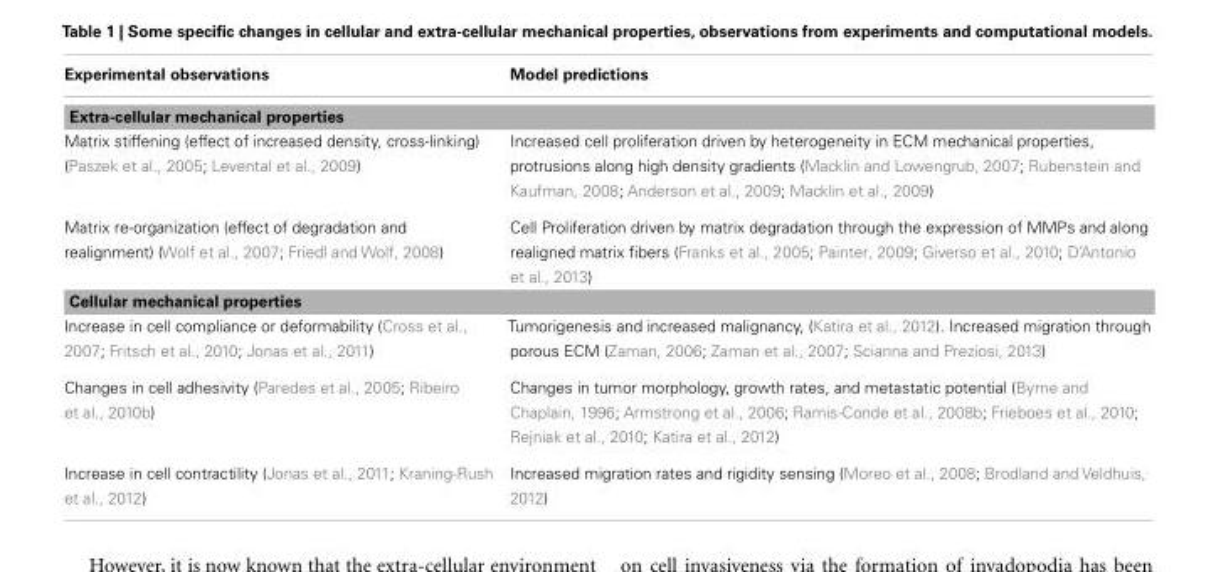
<table><thead><tr><td>Experimental observations</td><td>Model predictions</td></tr></thead><tbody><tr><td colspan="2">Extra-cellular mechanical properties</td></tr><tr><td>Matrix stiffening (effect of increased density, cross-linking) (Paszek et al., 2005; Levental et al., 2009)</td><td>Increased cell proliferation driven by heterogeneity in ECM mechanical properties, protrusions along high density gradients (Macklin and Lowengrub, 2007; Rubenstein and Kaufman, 2008; Anderson et al., 2009; Macklin et al., 2009)</td></tr><tr><td>Matrix re-organization (effect of degradation and realignment) (Wolf et al., 2007; Friedl and Wolf, 2008)</td><td>Cell Proliferation driven by matrix degradation through the expression of MMPs and along realigned matrix fibers (Franks et al., 2005; Painter, 2009; Giverso et al., 2010; D’Antonio et al., 2013)</td></tr><tr><td colspan="2">Cellular mechanical properties</td></tr><tr><td>Increase in cell compliance or deformability (Cross et al., 2007; Fritsch et al., 2010; Jonas et al., 2011)</td><td>Tumorigenesis and increased malignancy, (Katira et al., 2012). Increased migration through porous ECM (Zaman, 2006; Zaman et al., 2007; Scianna and Preziosi, 2013)</td></tr><tr><td>Changes in cell adhesivity (Paredes et al., 2005; Ribeiro et al., 2010b)</td><td>Changes in tumor morphology, growth rates, and metastatic potential (Byrne and Chaplain, 1996; Armstrong et al., 2006; Ramis-Conde et al., 2008b; Frieboes et al., 2010; Rejniak et al., 2010; Katira et al., 2012)</td></tr><tr><td>Increase in cell contractility (Jonas et al., 2011; Kraning-Rush et al., 2012)</td><td>Increased migration rates and rigidity sensing (Moreo et al., 2008; Brodland and Veldhuis, 2012)</td></tr></tbody></table>